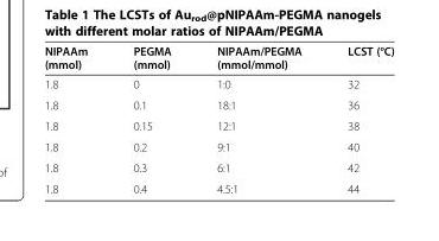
<table><thead><tr><td>NIPAAm (mmol)</td><td>PEGMA (mmol)</td><td>NIPAAm/PEGMA (mmol/mmol)</td><td>LCST (°C)</td></tr></thead><tbody><tr><td>1.8</td><td>0</td><td>1:0</td><td>32</td></tr><tr><td>1.8</td><td>0.1</td><td>18:1</td><td>36</td></tr><tr><td>1.8</td><td>0.15</td><td>12:1</td><td>38</td></tr><tr><td>1.8</td><td>0.2</td><td>9:1</td><td>40</td></tr><tr><td>1.8</td><td>0.3</td><td>6:1</td><td>42</td></tr><tr><td>1.8</td><td>0.4</td><td>4.5:1</td><td>44</td></tr></tbody></table>